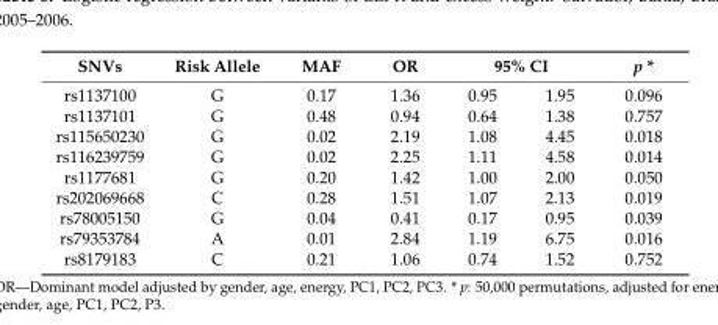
<table><thead><tr><td rowspan="2">SNVs rs1137100</td><td rowspan="2">Risk Allele G</td><td rowspan="2">MAF 0.17</td><td rowspan="2">OR 1.36</td><td colspan="2">95% CI</td><td rowspan="2">p * 0.096</td></tr><tr><td>0.95</td><td>1.95</td></tr></thead><tbody><tr><td>rs1137101</td><td>G</td><td>0.48</td><td>0.94</td><td>0.64</td><td>1.38</td><td>0.757</td></tr><tr><td>rs115650230</td><td>G</td><td>0.02</td><td>2.19</td><td>1.08</td><td>4.45</td><td>0.018</td></tr><tr><td>rs116239759</td><td>G</td><td>0.02</td><td>2.25</td><td>1.11</td><td>4.58</td><td>0.014</td></tr><tr><td>rs1177681</td><td>G</td><td>0.20</td><td>1.42</td><td>1.00</td><td>2.00</td><td>0.050</td></tr><tr><td>rs202069668</td><td>C</td><td>0.28</td><td>1.51</td><td>1.07</td><td>2.13</td><td>0.019</td></tr><tr><td>rs78005150</td><td>G</td><td>0.04</td><td>0.41</td><td>0.17</td><td>0.95</td><td>0.039</td></tr><tr><td>rs79353784</td><td>A</td><td>0.01</td><td>2.84</td><td>1.19</td><td>6.75</td><td>0.016</td></tr><tr><td>rs8179183</td><td>C</td><td>0.21</td><td>1.06</td><td>0.74</td><td>1.52</td><td>0.752</td></tr></tbody></table>